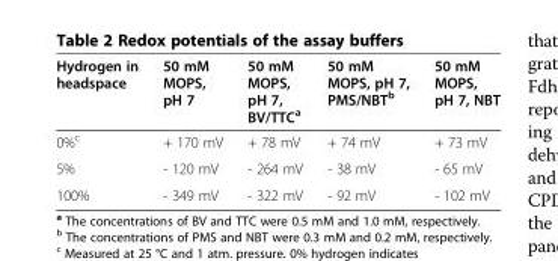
<table><thead><tr><td>Hydrogen in headspace</td><td>50 mM MOPS, pH 7</td><td>50 mM MOPS, pH 7, BV/TTC<sup>a</sup></td><td>50 mM MOPS, pH 7, PMS/NBT<sup>b</sup></td><td>50 mM MOPS, pH 7, NBT</td></tr></thead><tbody><tr><td>0%<sup>c</sup></td><td>+ 170 mV</td><td>+ 78 mV</td><td>+ 74 mV</td><td>+ 73 mV</td></tr><tr><td>5%</td><td>- 120 mV</td><td>- 264 mV</td><td>- 38 mV</td><td>- 65 mV</td></tr><tr><td>100%</td><td>- 349 mV</td><td>- 322 mV</td><td>- 92 mV</td><td>- 102 mV</td></tr></tbody></table>